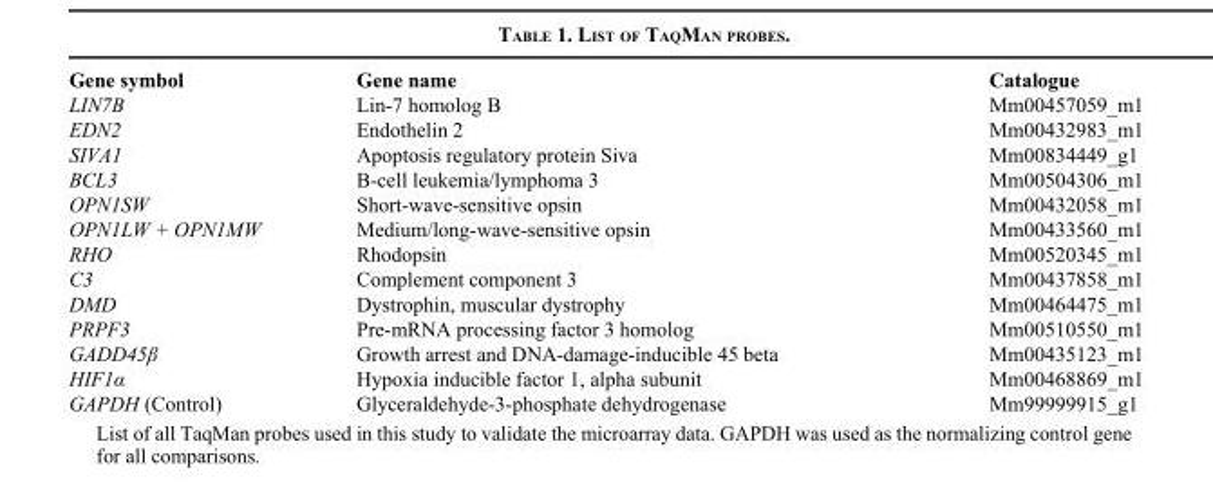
<table><thead><tr><td>Gene symbol</td><td>Gene name</td><td>Catalogue</td></tr></thead><tbody><tr><td>LIN7B</td><td>Lin-7 homolog B</td><td>Mm00457059_m1</td></tr><tr><td>EDN2</td><td>Endothelin 2</td><td>Mm00432983_m1</td></tr><tr><td>SIVA1</td><td>Apoptosis regulatory protein Siva</td><td>Mm00834449_g1</td></tr><tr><td>BCL3</td><td>B-cell leukemia/lymphoma 3</td><td>Mm00504306_m1</td></tr><tr><td>OPN1SW</td><td>Short-wave-sensitive opsin</td><td>Mm00432058_m1</td></tr><tr><td>OPN1LW + OPN1MW</td><td>Medium/long-wave-sensitive opsin</td><td>Mm00433560_m1</td></tr><tr><td>RHO</td><td>Rhodopsin</td><td>Mm00520345_m1</td></tr><tr><td>C3</td><td>Complement component 3</td><td>Mm00437858_m1</td></tr><tr><td>DMD</td><td>Dystrophin, muscular dystrophy</td><td>Mm00464475_m1</td></tr><tr><td>PRPF3</td><td>Pre-mRNA processing factor 3 homolog</td><td>Mm00510550_m1</td></tr><tr><td>GADD45β</td><td>Growth arrest and DNA-damage-inducible 45 beta</td><td>Mm00435123_m1</td></tr><tr><td>HIF1α</td><td>Hypoxia inducible factor 1, alpha subunit</td><td>Mm00468869_m1</td></tr><tr><td>GAPDH (Control)</td><td>Glyceraldehyde-3-phosphate dehydrogenase</td><td>Mm99999915_g1</td></tr></tbody></table>